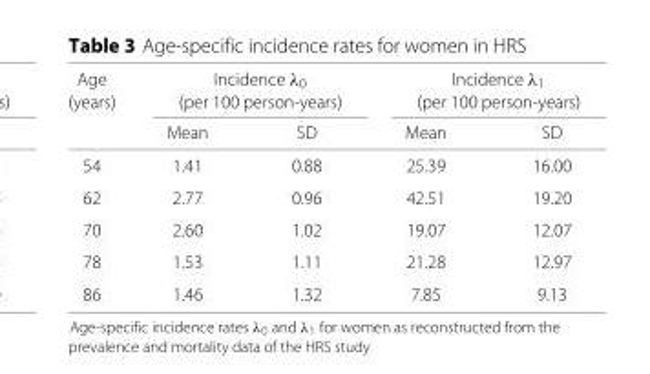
<table><thead><tr><td rowspan="3">Age (years)</td><td rowspan="2" colspan="2">Incidence λ<sub>0</sub> (per 100 person-years)</td><td rowspan="2" colspan="2">Incidence λ<sub>1</sub> (per 100 person-years)</td></tr><tr></tr><tr><td>Mean</td><td>SD</td><td>Mean</td><td>SD</td></tr></thead><tbody><tr><td>54</td><td>1.41</td><td>0.88</td><td>25.39</td><td>16.00</td></tr><tr><td>62</td><td>2.77</td><td>0.96</td><td>42.51</td><td>19.20</td></tr><tr><td>70</td><td>2.60</td><td>1.02</td><td>19.07</td><td>12.07</td></tr><tr><td>78</td><td>1.53</td><td>1.11</td><td>21.28</td><td>12.97</td></tr><tr><td>86</td><td>1.46</td><td>1.32</td><td>7.85</td><td>9.13</td></tr></tbody></table>